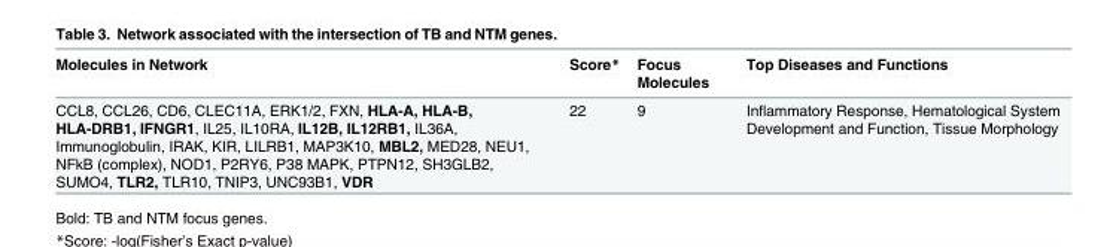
<table><thead><tr><td>Molecules in Network</td><td>Score*</td><td>Focus Molecules</td><td>Top Diseases and Functions</td></tr></thead><tbody><tr><td>CCL8, CCL26, CD6, CLEC11A, ERK1/2, FXN, HLA-A, HLA-B, HLA-DRB1, IFNGR1, IL25, IL10RA, IL12B, IL12RB1, IL36A, Immunoglobulin, IRAK, KIR, LILRB1, MAP3K10, MBL2, MED28, NEU1, NFkB (complex), NOD1, P2RY6, P38 MAPK, PTPN12, SH3GLB2, SUMO4, TLR2, TLR10, TNIP3, UNC93B1, VDR</td><td>22</td><td>9</td><td>Inflammatory Response, Hematological System Development and Function, Tissue Morphology</td></tr></tbody></table>